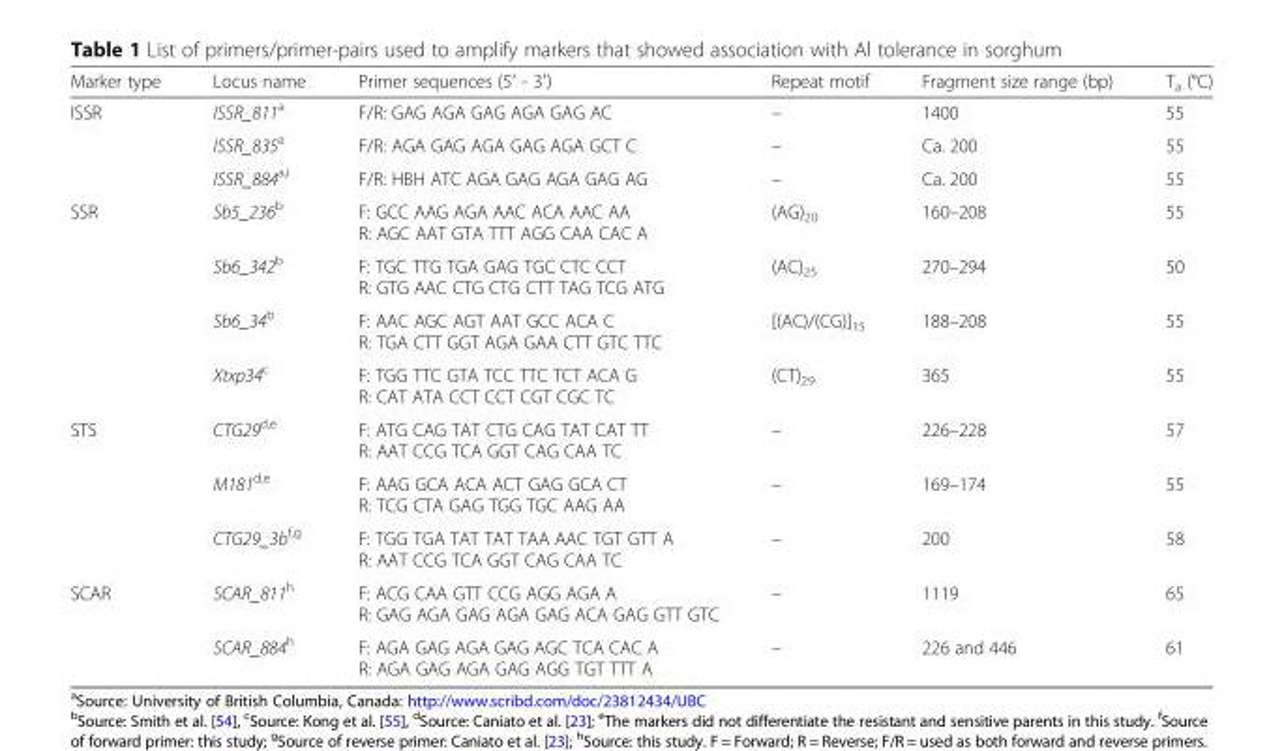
<table><thead><tr><td>Marker type</td><td>Locus name</td><td>Primer sequences (5′ - 3′)</td><td>Repeat motif</td><td>Fragment size range (bp)</td><td>T<sub>a</sub> (°C)</td></tr></thead><tbody><tr><td rowspan="3">ISSR</td><td>ISSR_811<sup>a</sup></td><td>F/R: GAG AGA GAG AGA GAG AC</td><td>–</td><td>1400</td><td>55</td></tr><tr><td>ISSR_835<sup>a</sup></td><td>F/R: AGA GAG AGA GAG AGA GCT C</td><td>–</td><td>Ca. 200</td><td>55</td></tr><tr><td>ISSR_884<sup>a,i</sup></td><td>F/R: HBH ATC AGA GAG AGA GAG AG</td><td>–</td><td>Ca. 200</td><td>55</td></tr><tr><td rowspan="4">SSR</td><td>Sb5_236<sup>b</sup></td><td>F: GCC AAG AGA AAC ACA AAC AA R: AGC AAT GTA TTT AGG CAA CAC A</td><td>(AG)<sub>20</sub></td><td>160–208</td><td>55</td></tr><tr><td>Sb6_342<sup>b</sup></td><td>F: TGC TTG TGA GAG TGC CTC CCT R: GTG AAC CTG CTG CTT TAG TCG ATG</td><td>(AC)<sub>25</sub></td><td>270–294</td><td>50</td></tr><tr><td>Sb6_34<sup>b</sup></td><td>F: AAC AGC AGT AAT GCC ACA C R: TGA CTT GGT AGA GAA CTT GTC TTC</td><td>[(AC)/(CG)]<sub>15</sub></td><td>188–208</td><td>55</td></tr><tr><td>Xtxp34<sup>c</sup></td><td>F: TGG TTC GTA TCC TTC TCT ACA G R: CAT ATA CCT CCT CGT CGC TC</td><td>(CT)<sub>29</sub></td><td>365</td><td>55</td></tr><tr><td rowspan="3">STS</td><td>CTG29<sup>d,e</sup></td><td>F: ATG CAG TAT CTG CAG TAT CAT TT R: AAT CCG TCA GGT CAG CAA TC</td><td>–</td><td>226–228</td><td>57</td></tr><tr><td>M181<sup>d,e</sup></td><td>F: AAG GCA ACA ACT GAG GCA CT R: TCG CTA GAG TGG TGC AAG AA</td><td>–</td><td>169–174</td><td>55</td></tr><tr><td>CTG29_3b<sup>f,g</sup></td><td>F: TGG TGA TAT TAT TAA AAC TGT GTT A R: AAT CCG TCA GGT CAG CAA TC</td><td>–</td><td>200</td><td>58</td></tr><tr><td rowspan="2">SCAR</td><td>SCAR_811<sup>h</sup></td><td>F: ACG CAA GTT CCG AGG AGA A R: GAG AGA GAG AGA GAG ACA GAG GTT GTC</td><td>–</td><td>1119</td><td>65</td></tr><tr><td>SCAR_884<sup>h</sup></td><td>F: AGA GAG AGA GAG AGC TCA CAC A R: AGA GAG AGA GAG AGG TGT TTT A</td><td>–</td><td>226 and 446</td><td>61</td></tr></tbody></table>